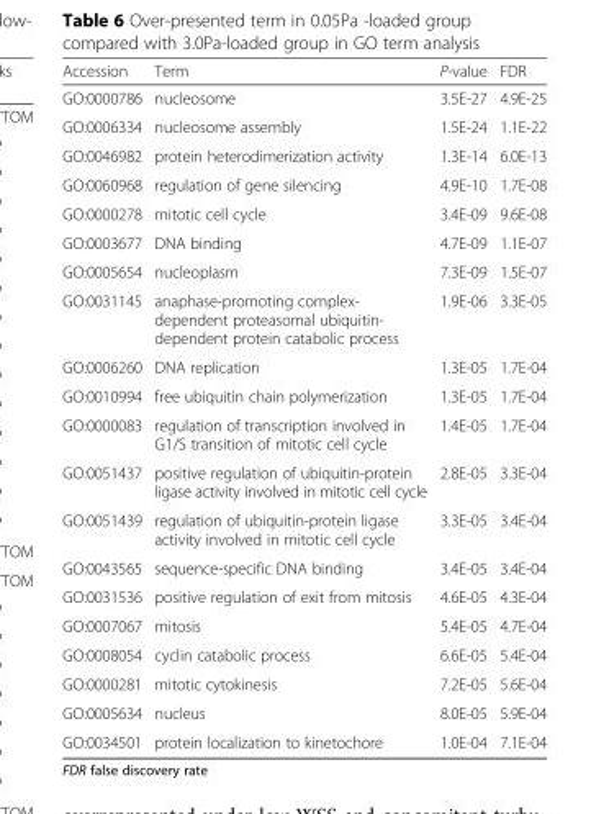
<table><thead><tr><td>Accession</td><td>Term</td><td>P-value</td><td>FDR</td></tr></thead><tbody><tr><td>GO:0000786</td><td>nucleosome</td><td>3.5E-27</td><td>4.9E-25</td></tr><tr><td>GO:0006334</td><td>nucleosome assembly</td><td>1.5E-24</td><td>1.1E-22</td></tr><tr><td>GO:0046982</td><td>protein heterodimerization activity</td><td>1.3E-14</td><td>6.0E-13</td></tr><tr><td>GO:0060968</td><td>regulation of gene silencing</td><td>4.9E-10</td><td>1.7E-08</td></tr><tr><td>GO:0000278</td><td>mitotic cell cycle</td><td>3.4E-09</td><td>9.6E-08</td></tr><tr><td>GO:0003677</td><td>DNA binding</td><td>4.7E-09</td><td>1.1E-07</td></tr><tr><td>GO:0005654</td><td>nucleoplasm</td><td>7.3E-09</td><td>1.5E-07</td></tr><tr><td>GO:0031145</td><td>anaphase-promoting complex- dependent proteasomal ubiquitin- dependent protein catabolic process</td><td>1.9E-06</td><td>3.3E-05</td></tr><tr><td>GO:0006260</td><td>DNA replication</td><td>1.3E-05</td><td>1.7E-04</td></tr><tr><td>GO:0010994</td><td>free ubiquitin chain polymerization</td><td>1.3E-05</td><td>1.7E-04</td></tr><tr><td>GO:0000083</td><td>regulation of transcription involved in G1/S transition of mitotic cell cycle</td><td>1.4E-05</td><td>1.7E-04</td></tr><tr><td>GO:0051437</td><td>positive regulation of ubiquitin-protein ligase activity involved in mitotic cell cycle</td><td>2.8E-05</td><td>3.3E-04</td></tr><tr><td>GO:0051439</td><td>regulation of ubiquitin-protein ligase activity involved in mitotic cell cycle</td><td>3.3E-05</td><td>3.4E-04</td></tr><tr><td>GO:0043565</td><td>sequence-specific DNA binding</td><td>3.4E-05</td><td>3.4E-04</td></tr><tr><td>GO:0031536</td><td>positive regulation of exit from mitosis</td><td>4.6E-05</td><td>4.3E-04</td></tr><tr><td>GO:0007067</td><td>mitosis</td><td>5.4E-05</td><td>4.7E-04</td></tr><tr><td>GO:0008054</td><td>cyclin catabolic process</td><td>6.6E-05</td><td>5.4E-04</td></tr><tr><td>GO:0000281</td><td>mitotic cytokinesis</td><td>7.2E-05</td><td>5.6E-04</td></tr><tr><td>GO:0005634</td><td>nucleus</td><td>8.0E-05</td><td>5.9E-04</td></tr><tr><td>GO:0034501</td><td>protein localization to kinetochore</td><td>1.0E-04</td><td>7.1E-04</td></tr></tbody></table>